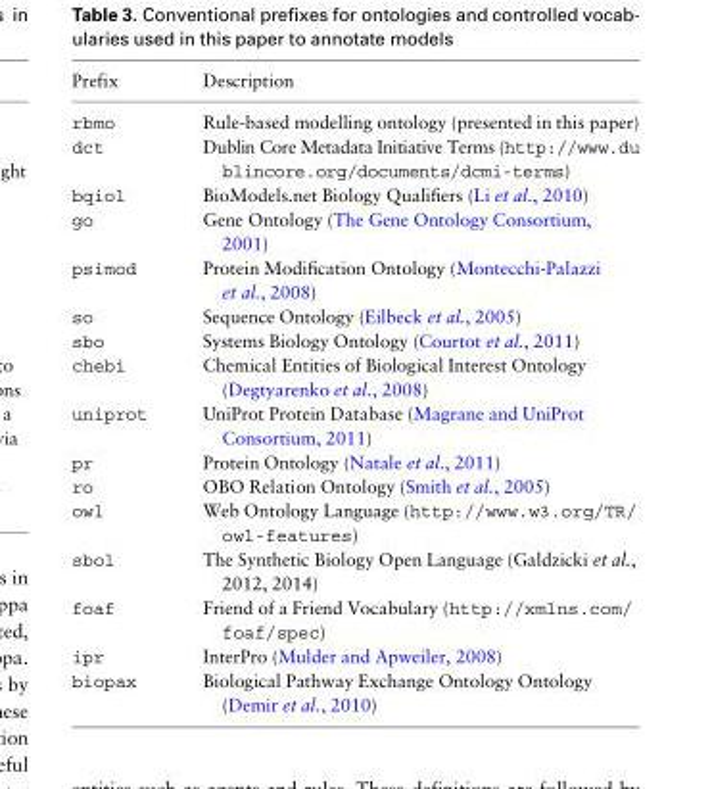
<table><thead><tr><td>Prefix</td><td>Description</td></tr></thead><tbody><tr><td>rbmo</td><td>Rule-based modelling ontology (presented in this paper)</td></tr><tr><td>dct</td><td>Dublin Core Metadata Initiative Terms (http://www.du blincore.org/documents/dcmi-terms)</td></tr><tr><td>bqiol</td><td>BioModels.net Biology Qualifiers (Li et al., 2010)</td></tr><tr><td>go</td><td>Gene Ontology (The Gene Ontology Consortium, 2001)</td></tr><tr><td>psimod</td><td>Protein Modification Ontology (Montecchi-Palazzi et al., 2008)</td></tr><tr><td>so</td><td>Sequence Ontology (Eilbeck et al., 2005)</td></tr><tr><td>sbo</td><td>Systems Biology Ontology (Courtot et al., 2011)</td></tr><tr><td>chebi</td><td>Chemical Entities of Biological Interest Ontology (Degtyarenko et al., 2008)</td></tr><tr><td>uniprot</td><td>UniProt Protein Database (Magrane and UniProt Consortium, 2011)</td></tr><tr><td>pr</td><td>Protein Ontology (Natale et al., 2011)</td></tr><tr><td>ro</td><td>OBO Relation Ontology (Smith et al., 2005)</td></tr><tr><td>owl</td><td>Web Ontology Language (http://www.w3.org/TR/ owl-features)</td></tr><tr><td>sbol</td><td>The Synthetic Biology Open Language (Galdzicki et al., 2012, 2014)</td></tr><tr><td>foaf</td><td>Friend of a Friend Vocabulary (http://xmlns.com/ foaf/spec)</td></tr><tr><td>ipr</td><td>InterPro (Mulder and Apweiler, 2008)</td></tr><tr><td>biopax</td><td>Biological Pathway Exchange Ontology Ontology (Demir et al., 2010)</td></tr></tbody></table>